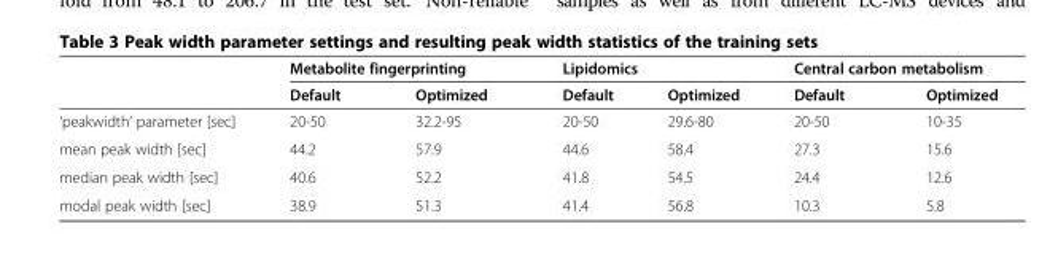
<table><thead><tr><td rowspan="2"></td><td colspan="2">Metabolite fingerprinting</td><td colspan="2">Lipidomics</td><td colspan="2">Central carbon metabolism</td></tr><tr><td>Default</td><td>Optimized</td><td>Default</td><td>Optimized</td><td>Default</td><td>Optimized</td></tr></thead><tbody><tr><td>‘peakwidth’ parameter [sec]</td><td>20-50</td><td>32.2-95</td><td>20-50</td><td>29.6-80</td><td>20-50</td><td>10-35</td></tr><tr><td>mean peak width [sec]</td><td>44.2</td><td>57.9</td><td>44.6</td><td>58.4</td><td>27.3</td><td>15.6</td></tr><tr><td>median peak width [sec]</td><td>40.6</td><td>52.2</td><td>41.8</td><td>54.5</td><td>24.4</td><td>12.6</td></tr><tr><td>modal peak width [sec]</td><td>38.9</td><td>51.3</td><td>41.4</td><td>56.8</td><td>10.3</td><td>5.8</td></tr></tbody></table>